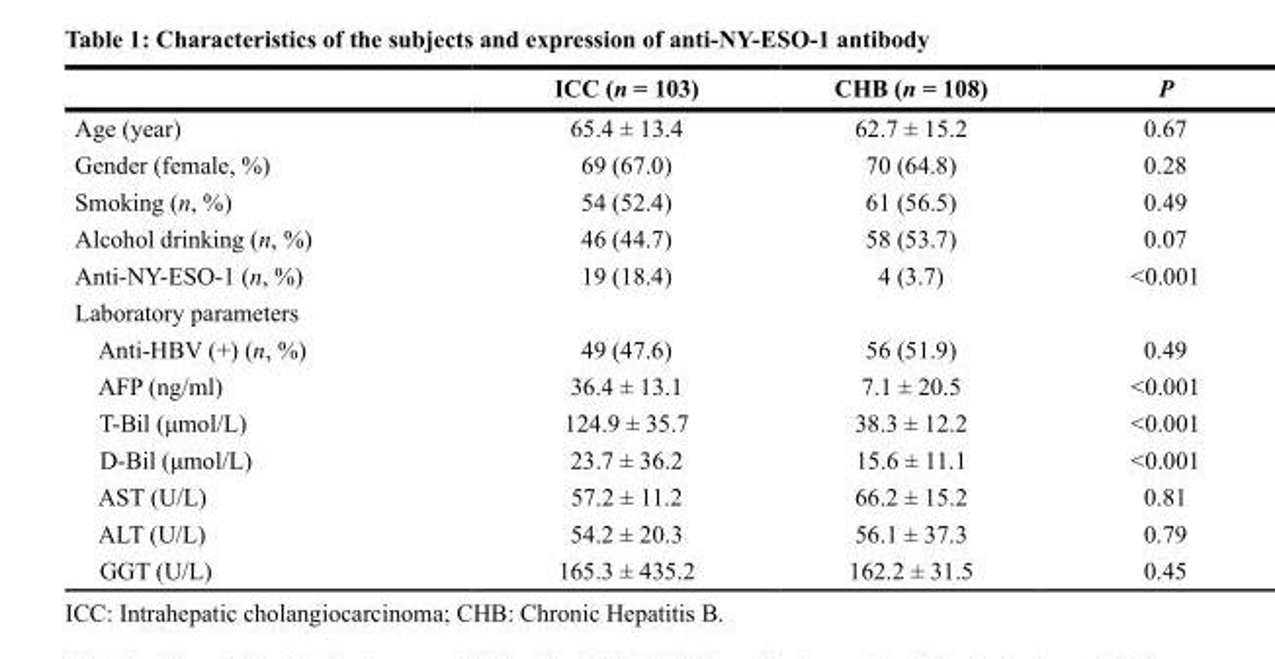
<table><thead><tr><td></td><td>ICC (n = 103)</td><td>CHB (n = 108)</td><td>P</td></tr></thead><tbody><tr><td>Age (year)</td><td>65.4 ± 13.4</td><td>62.7 ± 15.2</td><td>0.67</td></tr><tr><td>Gender (female, %)</td><td>69 (67.0)</td><td>70 (64.8)</td><td>0.28</td></tr><tr><td>Smoking (n, %)</td><td>54 (52.4)</td><td>61 (56.5)</td><td>0.49</td></tr><tr><td>Alcohol drinking (n, %)</td><td>46 (44.7)</td><td>58 (53.7)</td><td>0.07</td></tr><tr><td>Anti-NY-ESO-1 (n, %)</td><td>19 (18.4)</td><td>4 (3.7)</td><td>&lt;0.001</td></tr><tr><td colspan="4">Laboratory parameters</td></tr><tr><td>Anti-HBV (+) (n, %)</td><td>49 (47.6)</td><td>56 (51.9)</td><td>0.49</td></tr><tr><td>AFP (ng/ml)</td><td>36.4 ± 13.1</td><td>7.1 ± 20.5</td><td>&lt;0.001</td></tr><tr><td>T-Bil (μmol/L)</td><td>124.9 ± 35.7</td><td>38.3 ± 12.2</td><td>&lt;0.001</td></tr><tr><td>D-Bil (μmol/L)</td><td>23.7 ± 36.2</td><td>15.6 ± 11.1</td><td>&lt;0.001</td></tr><tr><td>AST (U/L)</td><td>57.2 ± 11.2</td><td>66.2 ± 15.2</td><td>0.81</td></tr><tr><td>ALT (U/L)</td><td>54.2 ± 20.3</td><td>56.1 ± 37.3</td><td>0.79</td></tr><tr><td>GGT (U/L)</td><td>165.3 ± 435.2</td><td>162.2 ± 31.5</td><td>0.45</td></tr></tbody></table>